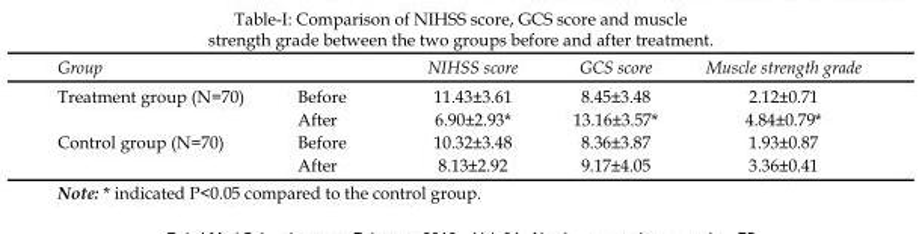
<table><thead><tr><td colspan="2">Group</td><td rowspan="2">NIHSS score 11.43±3.61</td><td rowspan="2">GCS score 8.45±3.48</td><td rowspan="2">Muscle strength grade 2.12±0.71</td></tr><tr><td>Treatment group (N=70)</td><td>Before</td></tr></thead><tbody><tr><td></td><td>After</td><td>6.90±2.93*</td><td>13.16±3.57*</td><td>4.84±0.79*</td></tr><tr><td rowspan="2">Control group (N=70)</td><td>Before</td><td>10.32±3.48</td><td>8.36±3.87</td><td>1.93±0.87</td></tr><tr><td>After</td><td>8.13±2.92</td><td>9.17±4.05</td><td>3.36±0.41</td></tr></tbody></table>